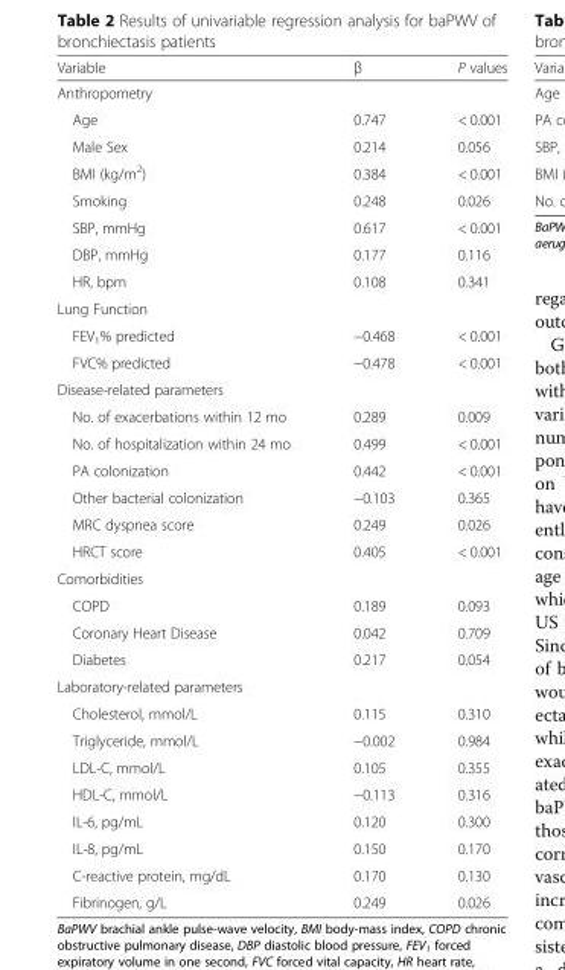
<table><thead><tr><td>Variable</td><td>β</td><td>P values</td></tr></thead><tbody><tr><td colspan="3">Anthropometry</td></tr><tr><td>Age</td><td>0.747</td><td>&lt; 0.001</td></tr><tr><td>Male Sex</td><td>0.214</td><td>0.056</td></tr><tr><td>BMI (kg/m<sup>2</sup>)</td><td>0.384</td><td>&lt; 0.001</td></tr><tr><td>Smoking</td><td>0.248</td><td>0.026</td></tr><tr><td>SBP, mmHg</td><td>0.617</td><td>&lt; 0.001</td></tr><tr><td>DBP, mmHg</td><td>0.177</td><td>0.116</td></tr><tr><td>HR, bpm</td><td>0.108</td><td>0.341</td></tr><tr><td colspan="3">Lung Function</td></tr><tr><td>FEV<sub>1</sub>% predicted</td><td>−0.468</td><td>&lt; 0.001</td></tr><tr><td>FVC% predicted</td><td>−0.478</td><td>&lt; 0.001</td></tr><tr><td colspan="3">Disease-related parameters</td></tr><tr><td>No. of exacerbations within 12 mo</td><td>0.289</td><td>0.009</td></tr><tr><td>No. of hospitalization within 24 mo</td><td>0.499</td><td>&lt; 0.001</td></tr><tr><td>PA colonization</td><td>0.442</td><td>&lt; 0.001</td></tr><tr><td>Other bacterial colonization</td><td>−0.103</td><td>0.365</td></tr><tr><td>MRC dyspnea score</td><td>0.249</td><td>0.026</td></tr><tr><td>HRCT score</td><td>0.405</td><td>&lt; 0.001</td></tr><tr><td colspan="3">Comorbidities</td></tr><tr><td>COPD</td><td>0.189</td><td>0.093</td></tr><tr><td>Coronary Heart Disease</td><td>0.042</td><td>0.709</td></tr><tr><td>Diabetes</td><td>0.217</td><td>0.054</td></tr><tr><td colspan="3">Laboratory-related parameters</td></tr><tr><td>Cholesterol, mmol/L</td><td>0.115</td><td>0.310</td></tr><tr><td>Triglyceride, mmol/L</td><td>−0.002</td><td>0.984</td></tr><tr><td>LDL-C, mmol/L</td><td>0.105</td><td>0.355</td></tr><tr><td>HDL-C, mmol/L</td><td>−0.113</td><td>0.316</td></tr><tr><td>IL-6, pg/mL</td><td>0.120</td><td>0.300</td></tr><tr><td>IL-8, pg/mL</td><td>0.150</td><td>0.170</td></tr><tr><td>C-reactive protein, mg/dL</td><td>0.170</td><td>0.130</td></tr><tr><td>Fibrinogen, g/L</td><td>0.249</td><td>0.026</td></tr></tbody></table>